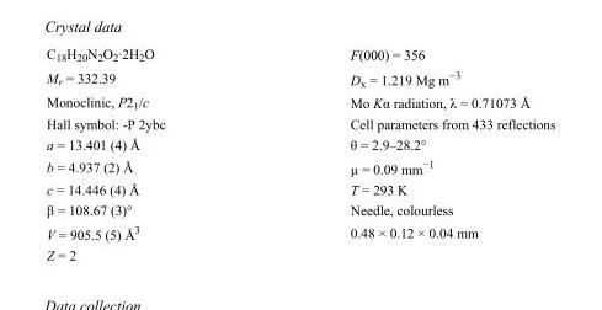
<table><tbody><tr><td>C<sub>18</sub>H<sub>20</sub>N<sub>2</sub>O<sub>2</sub>·2H<sub>2</sub>O</td><td>F(000) = 356</td></tr><tr><td>M<sub>r</sub> = 332.39</td><td>D<sub>x</sub> = 1.219 Mg m<sup>−3</sup></td></tr><tr><td>Monoclinic, P2<sub>1</sub>/c</td><td>Mo Kα radiation, λ = 0.71073 Å</td></tr><tr><td>Hall symbol: -P 2ybc</td><td>Cell parameters from 433 reflections</td></tr><tr><td>a = 13.401 (4) Å</td><td>θ = 2.9–28.2°</td></tr><tr><td>b = 4.937 (2) Å</td><td>µ = 0.09 mm<sup>−1</sup></td></tr><tr><td>c = 14.446 (4) Å</td><td>T = 293 K</td></tr><tr><td>β = 108.67 (3)°</td><td>Needle, colourless</td></tr><tr><td>V = 905.5 (5) Å<sup>3</sup></td><td>0.48 × 0.12 × 0.04 mm</td></tr><tr><td>Z = 2</td><td></td></tr></tbody></table>